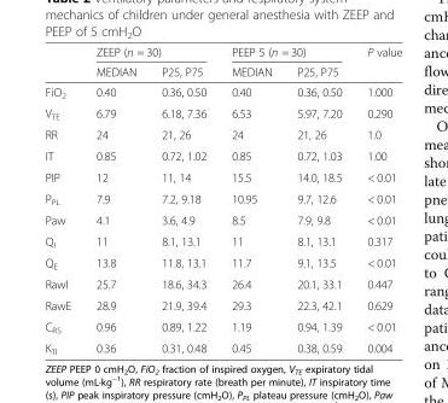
<table><thead><tr><td rowspan="2"></td><td colspan="2">ZEEP (n = 30)</td><td colspan="2">PEEP 5 (n = 30)</td><td rowspan="2">P value</td></tr><tr><td>MEDIAN</td><td>P25, P75</td><td>MEDIAN</td><td>P25, P75</td></tr></thead><tbody><tr><td>FiO<sub>2</sub></td><td>0.40</td><td>0.36, 0.50</td><td>0.40</td><td>0.36, 0.50</td><td>1.000</td></tr><tr><td>V<sub>TE</sub></td><td>6.79</td><td>6.18, 7.36</td><td>6.53</td><td>5.97, 7.20</td><td>0.290</td></tr><tr><td>RR</td><td>24</td><td>21, 26</td><td>24</td><td>21, 26</td><td>1.0</td></tr><tr><td>IT</td><td>0.85</td><td>0.72, 1.02</td><td>0.85</td><td>0.72, 1.03</td><td>1.00</td></tr><tr><td>PIP</td><td>12</td><td>11, 14</td><td>15.5</td><td>14.0, 18.5</td><td>&lt; 0.01</td></tr><tr><td>P<sub>PL</sub></td><td>7.9</td><td>7.2, 9.18</td><td>10.95</td><td>9.7, 12.6</td><td>&lt; 0.01</td></tr><tr><td>Paw</td><td>4.1</td><td>3.6, 4.9</td><td>8.5</td><td>7.9, 9.8</td><td>&lt; 0.01</td></tr><tr><td>Q<sub>I</sub></td><td>11</td><td>8.1, 13.1</td><td>11</td><td>8.1, 13.1</td><td>0.317</td></tr><tr><td>Q<sub>E</sub></td><td>13.8</td><td>11.8, 13.1</td><td>11.7</td><td>9.1, 13.5</td><td>&lt; 0.01</td></tr><tr><td>RawI</td><td>25.7</td><td>18.6, 34.3</td><td>26.4</td><td>20.1, 33.1</td><td>0.447</td></tr><tr><td>RawE</td><td>28.9</td><td>21.9, 39.4</td><td>29.3</td><td>22.3, 42.1</td><td>0.629</td></tr><tr><td>C<sub>RS</sub></td><td>0.96</td><td>0.89, 1.22</td><td>1.19</td><td>0.94, 1.39</td><td>&lt; 0.01</td></tr><tr><td>K<sub>TI</sub></td><td>0.36</td><td>0.31, 0.48</td><td>0.45</td><td>0.38, 0.59</td><td>0.004</td></tr></tbody></table>